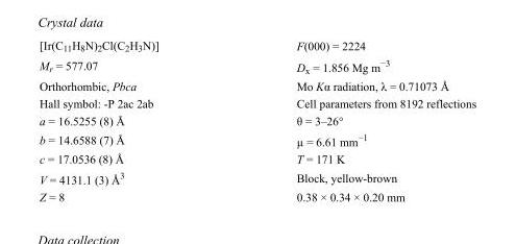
<table><tbody><tr><td>[Ir(C<sub>11</sub>H<sub>8</sub>N)<sub>2</sub>Cl(C<sub>2</sub>H<sub>3</sub>N)]</td><td>F(000) = 2224</td></tr><tr><td>M<sub>r</sub> = 577.07</td><td>D<sub>x</sub> = 1.856 Mg m<sup>−3</sup></td></tr><tr><td>Orthorhombic, Pbca</td><td>Mo Kα radiation, λ = 0.71073 Å</td></tr><tr><td>Hall symbol: -P 2ac 2ab</td><td>Cell parameters from 8192 reflections</td></tr><tr><td>a = 16.5255 (8) Å</td><td>θ = 3–26°</td></tr><tr><td>b = 14.6588 (7) Å</td><td>µ = 6.61 mm<sup>−1</sup></td></tr><tr><td>c = 17.0536 (8) Å</td><td>T = 171 K</td></tr><tr><td>V = 4131.1 (3) Å<sup>3</sup></td><td>Block, yellow-brown</td></tr><tr><td>Z = 8</td><td>0.38 × 0.34 × 0.20 mm</td></tr></tbody></table>